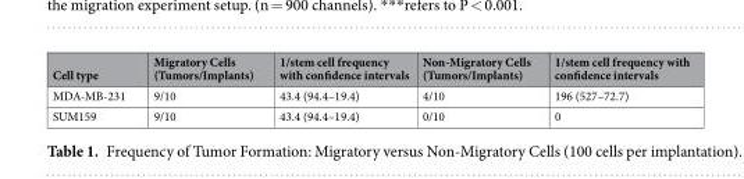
<table><thead><tr><td>Cell type</td><td>Migratory Cells (Tumors/Implants)</td><td>1/stem cell frequency with confidence intervals</td><td>Non-Migratory Cells (Tumors/Implants)</td><td>1/stem cell frequency with confidence intervals</td></tr></thead><tbody><tr><td>MDA-MB-231</td><td>9/10</td><td>43.4 (94.4–19.4)</td><td>4/10</td><td>196 (527–72.7)</td></tr><tr><td>SUM159</td><td>9/10</td><td>43.4 (94.4–19.4)</td><td>0/10</td><td>0</td></tr></tbody></table>